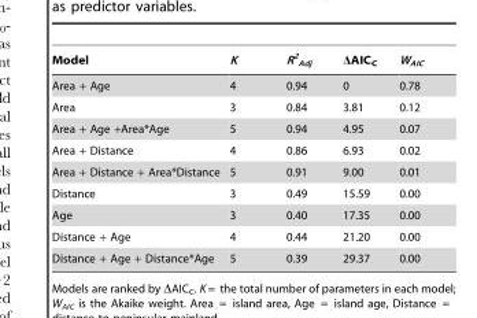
<table><thead><tr><td>Model</td><td>K</td><td>R<sup>2</sup> <sub>Adj</sub></td><td>ΔAIC<sub>C</sub></td><td>W<sub>AIC</sub></td></tr></thead><tbody><tr><td>Area + Age</td><td>4</td><td>0.94</td><td>0</td><td>0.78</td></tr><tr><td>Area</td><td>3</td><td>0.84</td><td>3.81</td><td>0.12</td></tr><tr><td>Area + Age +Area*Age</td><td>5</td><td>0.94</td><td>4.95</td><td>0.07</td></tr><tr><td>Area + Distance</td><td>4</td><td>0.86</td><td>6.93</td><td>0.02</td></tr><tr><td>Area + Distance + Area*Distance</td><td>5</td><td>0.91</td><td>9.00</td><td>0.01</td></tr><tr><td>Distance</td><td>3</td><td>0.49</td><td>15.59</td><td>0.00</td></tr><tr><td>Age</td><td>3</td><td>0.40</td><td>17.35</td><td>0.00</td></tr><tr><td>Distance + Age</td><td>4</td><td>0.44</td><td>21.20</td><td>0.00</td></tr><tr><td>Distance + Age + Distance*Age</td><td>5</td><td>0.39</td><td>29.37</td><td>0.00</td></tr></tbody></table>